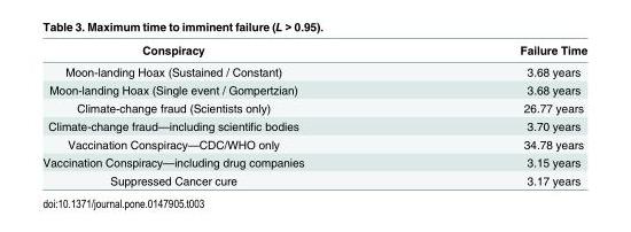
<table><thead><tr><td>Conspiracy</td><td>Failure Time</td></tr></thead><tbody><tr><td>Moon-landing Hoax (Sustained / Constant)</td><td>3.68 years</td></tr><tr><td>Moon-landing Hoax (Single event / Gompertzian)</td><td>3.68 years</td></tr><tr><td>Climate-change fraud (Scientists only)</td><td>26.77 years</td></tr><tr><td>Climate-change fraud—including scientific bodies</td><td>3.70 years</td></tr><tr><td>Vaccination Conspiracy—CDC/WHO only</td><td>34.78 years</td></tr><tr><td>Vaccination Conspiracy—including drug companies</td><td>3.15 years</td></tr><tr><td>Suppressed Cancer cure</td><td>3.17 years</td></tr></tbody></table>